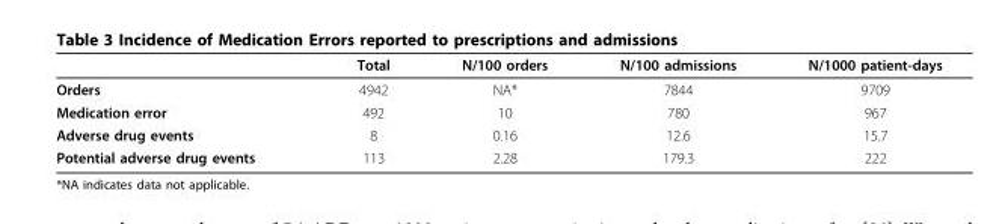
<table><thead><tr><td></td><td>Total</td><td>N/100 orders</td><td>N/100 admissions</td><td>N/1000 patient-days</td></tr></thead><tbody><tr><td>Orders</td><td>4942</td><td>NA*</td><td>7844</td><td>9709</td></tr><tr><td>Medication error</td><td>492</td><td>10</td><td>780</td><td>967</td></tr><tr><td>Adverse drug events</td><td>8</td><td>0.16</td><td>12.6</td><td>15.7</td></tr><tr><td>Potential adverse drug events</td><td>113</td><td>2.28</td><td>179.3</td><td>222</td></tr></tbody></table>